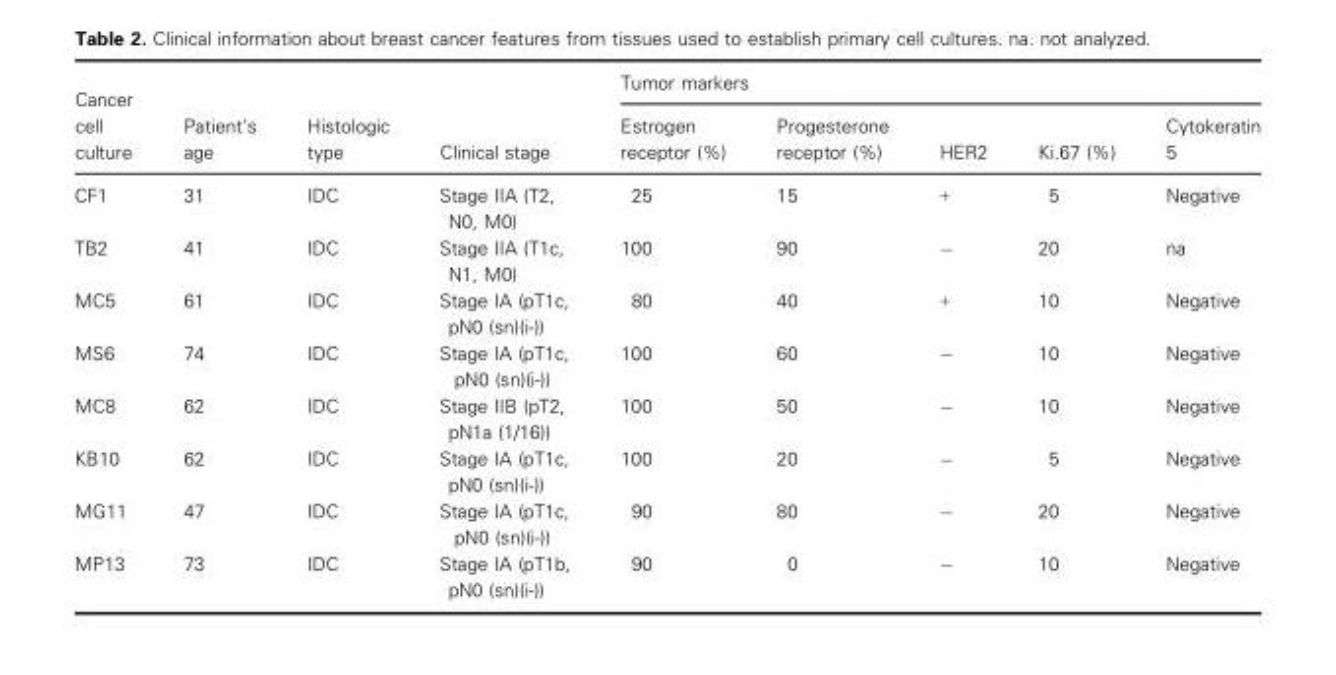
<table><thead><tr><td rowspan="2">Cancer cell culture</td><td rowspan="2">Patient’s age</td><td rowspan="2">Histologic type</td><td rowspan="2">Clinical stage</td><td colspan="5">Tumor markers</td></tr><tr><td>Estrogen receptor (%)</td><td>Progesterone receptor (%)</td><td>HER2</td><td>Ki.67 (%)</td><td>Cytokeratin 5</td></tr></thead><tbody><tr><td>CF1</td><td>31</td><td>IDC</td><td>Stage IIA (T2, N0, M0)</td><td>25</td><td>15</td><td>+</td><td>5</td><td>Negative</td></tr><tr><td>TB2</td><td>41</td><td>IDC</td><td>Stage IIA (T1c, N1, M0)</td><td>100</td><td>90</td><td>−</td><td>20</td><td>na</td></tr><tr><td>MC5</td><td>61</td><td>IDC</td><td>Stage IA (pT1c, pN0 (sn)(i-))</td><td>80</td><td>40</td><td>+</td><td>10</td><td>Negative</td></tr><tr><td>MS6</td><td>74</td><td>IDC</td><td>Stage IA (pT1c, pN0 (sn)(i-))</td><td>100</td><td>60</td><td>−</td><td>10</td><td>Negative</td></tr><tr><td>MC8</td><td>62</td><td>IDC</td><td>Stage IIB (pT2, pN1a (1/16))</td><td>100</td><td>50</td><td>−</td><td>10</td><td>Negative</td></tr><tr><td>KB10</td><td>62</td><td>IDC</td><td>Stage IA (pT1c, pN0 (sn)(i-))</td><td>100</td><td>20</td><td>−</td><td>5</td><td>Negative</td></tr><tr><td>MG11</td><td>47</td><td>IDC</td><td>Stage IA (pT1c, pN0 (sn)(i-))</td><td>90</td><td>80</td><td>−</td><td>20</td><td>Negative</td></tr><tr><td>MP13</td><td>73</td><td>IDC</td><td>Stage IA (pT1b, pN0 (sn)(i-))</td><td>90</td><td>0</td><td>−</td><td>10</td><td>Negative</td></tr></tbody></table>